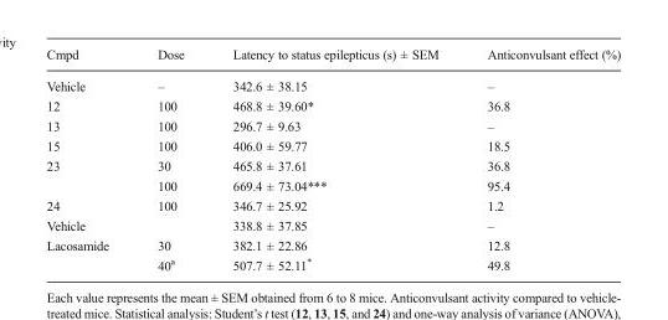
<table><thead><tr><td>Cmpd</td><td>Dose</td><td>Latency to status epilepticus (s) ± SEM</td><td>Anticonvulsant effect (%)</td></tr></thead><tbody><tr><td>Vehicle</td><td>–</td><td>342.6 ± 38.15</td><td>–</td></tr><tr><td>12</td><td>100</td><td>468.8 ± 39.60*</td><td>36.8</td></tr><tr><td>13</td><td>100</td><td>296.7 ± 9.63</td><td>–</td></tr><tr><td>15</td><td>100</td><td>406.0 ± 59.77</td><td>18.5</td></tr><tr><td rowspan="2">23</td><td>30</td><td>465.8 ± 37.61</td><td>36.8</td></tr><tr><td>100</td><td>669.4 ± 73.04***</td><td>95.4</td></tr><tr><td>24</td><td>100</td><td>346.7 ± 25.92</td><td>1.2</td></tr><tr><td>Vehicle</td><td></td><td>338.8 ± 37.85</td><td>–</td></tr><tr><td rowspan="2">Lacosamide</td><td>30</td><td>382.1 ± 22.86</td><td>12.8</td></tr><tr><td>40<sup>a</sup></td><td>507.7 ± 52.11*</td><td>49.8</td></tr></tbody></table>